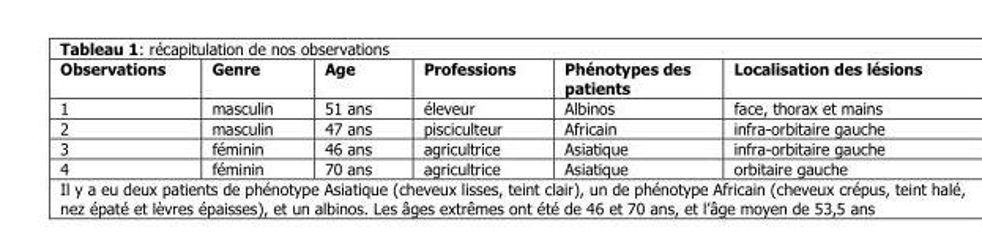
<table><thead><tr><td>Observations</td><td>Genre</td><td>Age</td><td>Professions</td><td>Phénotypes des patients</td><td>Localisation des lésions</td></tr></thead><tbody><tr><td>1</td><td>masculin</td><td>51 ans</td><td>éleveur</td><td>Albinos</td><td>face, thorax et mains</td></tr><tr><td>2</td><td>masculin</td><td>47 ans</td><td>pisciculteur</td><td>Africain</td><td>infra-orbitaire gauche</td></tr><tr><td>3</td><td>féminin</td><td>46 ans</td><td>agricultrice</td><td>Asiatique</td><td>infra-orbitaire gauche</td></tr><tr><td>4</td><td>féminin</td><td>70 ans</td><td>agricultrice</td><td>Asiatique</td><td>orbitaire gauche</td></tr></tbody></table>